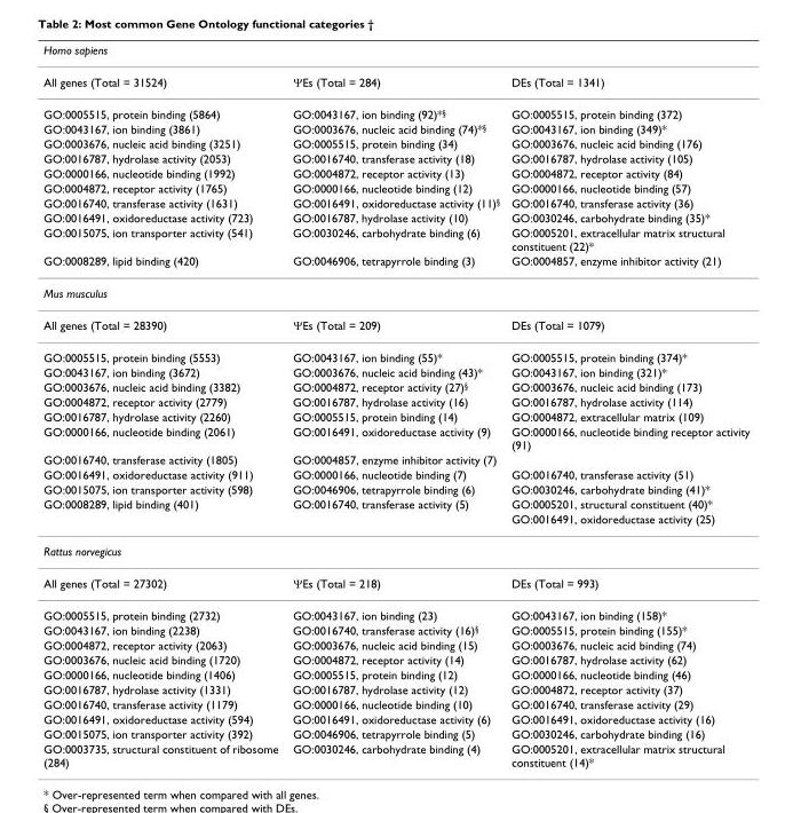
<table><thead><tr><td colspan="3">Homo sapiens</td></tr><tr><td>All genes (Total = 31524)</td><td>ΨEs (Total = 284)</td><td>DEs (Total = 1341)</td></tr></thead><tbody><tr><td>GO:0005515, protein binding (5864)</td><td>GO:0043167, ion binding (92)*<sup>§</sup></td><td>GO:0005515, protein binding (372)</td></tr><tr><td>GO:0043167, ion binding (3861)</td><td>GO:0003676, nucleic acid binding (74)*<sup>§</sup></td><td>GO:0043167, ion binding (349)*</td></tr><tr><td>GO:0003676, nucleic acid binding (3251)</td><td>GO:0005515, protein binding (34)</td><td>GO:0003676, nucleic acid binding (176)</td></tr><tr><td>GO:0016787, hydrolase activity (2053)</td><td>GO:0016740, transferase activity (18)</td><td>GO:0016787, hydrolase activity (105)</td></tr><tr><td>GO:0000166, nucleotide binding (1992)</td><td>GO:0004872, receptor activity (13)</td><td>GO:0004872, receptor activity (84)</td></tr><tr><td>GO:0004872, receptor activity (1765)</td><td>GO:0000166, nucleotide binding (12)</td><td>GO:0000166, nucleotide binding (57)</td></tr><tr><td>GO:0016740, transferase activity (1631)</td><td>GO:0016491, oxidoreductase activity (11)<sup>§</sup></td><td>GO:0016740, transferase activity (36)</td></tr><tr><td>GO:0016491, oxidoreductase activity (723)</td><td>GO:0016787, hydrolase activity (10)</td><td>GO:0030246, carbohydrate binding (35)*</td></tr><tr><td>GO:0015075, ion transporter activity (541)</td><td>GO:0030246, carbohydrate binding (6)</td><td>GO:0005201, extracellular matrix structural constituent (22)*</td></tr><tr><td>GO:0008289, lipid binding (420)</td><td>GO:0046906, tetrapyrrole binding (3)</td><td>GO:0004857, enzyme inhibitor activity (21)</td></tr><tr><td colspan="3">Mus musculus</td></tr><tr><td>All genes (Total = 28390)</td><td>ΨEs (Total = 209)</td><td>DEs (Total = 1079)</td></tr><tr><td>GO:0005515, protein binding (5553)</td><td>GO:0043167, ion binding (55)*</td><td>GO:0005515, protein binding (374)*</td></tr><tr><td>GO:0043167, ion binding (3672)</td><td>GO:0003676, nucleic acid binding (43)*</td><td>GO:0043167, ion binding (321)*</td></tr><tr><td>GO:0003676, nucleic acid binding (3382)</td><td>GO:0004872, receptor activity (27)<sup>§</sup></td><td>GO:0003676, nucleic acid binding (173)</td></tr><tr><td>GO:0004872, receptor activity (2779)</td><td>GO:0016787, hydrolase activity (16)</td><td>GO:0016787, hydrolase activity (114)</td></tr><tr><td>GO:0016787, hydrolase activity (2260)</td><td>GO:0005515, protein binding (14)</td><td>GO:0004872, extracellular matrix (109)</td></tr><tr><td>GO:0000166, nucleotide binding (2061)</td><td>GO:0016491, oxidoreductase activity (9)</td><td>GO:0000166, nucleotide binding receptor activity (91)</td></tr><tr><td>GO:0016740, transferase activity (1805)</td><td>GO:0004857, enzyme inhibitor activity (7)</td><td></td></tr><tr><td>GO:0016491, oxidoreductase activity (911)</td><td>GO:0000166, nucleotide binding (7)</td><td>GO:0016740, transferase activity (51)</td></tr><tr><td>GO:0015075, ion transporter activity (598)</td><td>GO:0046906, tetrapyrrole binding (6)</td><td>GO:0030246, carbohydrate binding (41)*</td></tr><tr><td rowspan="2">GO:0008289, lipid binding (401)</td><td>GO:0016740, transferase activity (5)</td><td>GO:0005201, structural constituent (40)*</td></tr><tr><td></td><td>GO:0016491, oxidoreductase activity (25)</td></tr><tr><td colspan="3">Rattus norvegicus</td></tr><tr><td>All genes (Total = 27302)</td><td>ΨEs (Total = 218)</td><td>DEs (Total = 993)</td></tr><tr><td>GO:0005515, protein binding (2732)</td><td>GO:0043167, ion binding (23)</td><td>GO:0043167, ion binding (158)*</td></tr><tr><td>GO:0043167, ion binding (2238)</td><td>GO:0016740, transferase activity (16)<sup>§</sup></td><td>GO:0005515, protein binding (155)*</td></tr><tr><td>GO:0004872, receptor activity (2063)</td><td>GO:0003676, nucleic acid binding (15)</td><td>GO:0003676, nucleic acid binding (74)</td></tr><tr><td>GO:0003676, nucleic acid binding (1720)</td><td>GO:0004872, receptor activity (14)</td><td>GO:0016787, hydrolase activity (62)</td></tr><tr><td>GO:0000166, nucleotide binding (1406)</td><td>GO:0005515, protein binding (12)</td><td>GO:0000166, nucleotide binding (46)</td></tr><tr><td>GO:0016787, hydrolase activity (1331)</td><td>GO:0016787, hydrolase activity (12)</td><td>GO:0004872, receptor activity (37)</td></tr><tr><td>GO:0016740, transferase activity (1179)</td><td>GO:0000166, nucleotide binding (10)</td><td>GO:0016740, transferase activity (29)</td></tr><tr><td>GO:0016491, oxidoreductase activity (594)</td><td>GO:0016491, oxidoreductase activity (6)</td><td>GO:0016491, oxidoreductase activity (16)</td></tr><tr><td>GO:0015075, ion transporter activity (392)</td><td>GO:0046906, tetrapyrrole binding (5)</td><td>GO:0030246, carbohydrate binding (16)</td></tr><tr><td>GO:0003735, structural constituent of ribosome (284)</td><td>GO:0030246, carbohydrate binding (4)</td><td>GO:0005201, extracellular matrix structural constituent (14)*</td></tr></tbody></table>